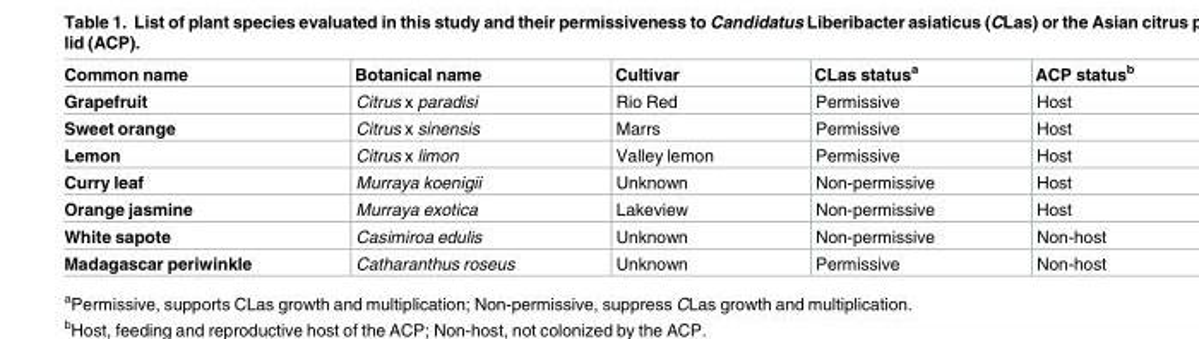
<table><thead><tr><td>Common name</td><td>Botanical name</td><td>Cultivar</td><td>CLas status<sup>a</sup></td><td>ACP status<sup>b</sup></td></tr></thead><tbody><tr><td>Grapefruit</td><td>Citrus x paradisi</td><td>Rio Red</td><td>Permissive</td><td>Host</td></tr><tr><td>Sweet orange</td><td>Citrus x sinensis</td><td>Marrs</td><td>Permissive</td><td>Host</td></tr><tr><td>Lemon</td><td>Citrus x limon</td><td>Valley lemon</td><td>Permissive</td><td>Host</td></tr><tr><td>Curry leaf</td><td>Murraya koenigii</td><td>Unknown</td><td>Non-permissive</td><td>Host</td></tr><tr><td>Orange jasmine</td><td>Murraya exotica</td><td>Lakeview</td><td>Non-permissive</td><td>Host</td></tr><tr><td>White sapote</td><td>Casimiroa edulis</td><td>Unknown</td><td>Non-permissive</td><td>Non-host</td></tr><tr><td>Madagascar periwinkle</td><td>Catharanthus roseus</td><td>Unknown</td><td>Permissive</td><td>Non-host</td></tr></tbody></table>